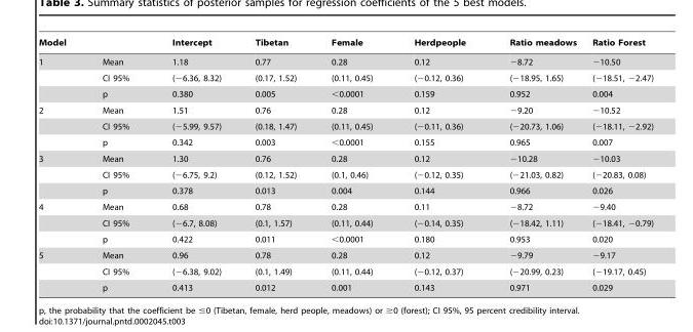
<table><thead><tr><td>Model</td><td></td><td>Intercept</td><td>Tibetan</td><td>Female</td><td>Herdpeople</td><td>Ratio meadows</td><td>Ratio Forest</td></tr></thead><tbody><tr><td rowspan="3">1</td><td>Mean</td><td>1.18</td><td>0.77</td><td>0.28</td><td>0.12</td><td>−8.72</td><td>−10.50</td></tr><tr><td>CI 95%</td><td>(−6.36, 8.32)</td><td>(0.17, 1.52)</td><td>(0.11, 0.45)</td><td>(−0.12, 0.36)</td><td>(−18.95, 1.65)</td><td>(−18.51, −2.47)</td></tr><tr><td>p</td><td>0.380</td><td>0.005</td><td>&lt;0.0001</td><td>0.159</td><td>0.952</td><td>0.004</td></tr><tr><td rowspan="3">2</td><td>Mean</td><td>1.51</td><td>0.76</td><td>0.28</td><td>0.12</td><td>−9.20</td><td>−10.52</td></tr><tr><td>CI 95%</td><td>(−5.99, 9.57)</td><td>(0.18, 1.47)</td><td>(0.11, 0.45)</td><td>(−0.11, 0.36)</td><td>(−20.73, 1.06)</td><td>(−18.11, −2.92)</td></tr><tr><td>p</td><td>0.342</td><td>0.003</td><td>&lt;0.0001</td><td>0.155</td><td>0.965</td><td>0.007</td></tr><tr><td rowspan="3">3</td><td>Mean</td><td>1.30</td><td>0.76</td><td>0.28</td><td>0.12</td><td>−10.28</td><td>−10.03</td></tr><tr><td>CI 95%</td><td>(−6.75, 9.2)</td><td>(0.12, 1.52)</td><td>(0.1, 0.46)</td><td>(−0.12, 0.35)</td><td>(−21.03, 0.82)</td><td>(−20.83, 0.08)</td></tr><tr><td>p</td><td>0.378</td><td>0.013</td><td>0.004</td><td>0.144</td><td>0.966</td><td>0.026</td></tr><tr><td rowspan="3">4</td><td>Mean</td><td>0.68</td><td>0.78</td><td>0.28</td><td>0.11</td><td>−8.72</td><td>−9.40</td></tr><tr><td>CI 95%</td><td>(−6.7, 8.08)</td><td>(0.1, 1.57)</td><td>(0.11, 0.44)</td><td>(−0.14, 0.35)</td><td>(−18.42, 1.11)</td><td>(−18.41, −0.79)</td></tr><tr><td>p</td><td>0.422</td><td>0.011</td><td>&lt;0.0001</td><td>0.180</td><td>0.953</td><td>0.020</td></tr><tr><td rowspan="3">5</td><td>Mean</td><td>0.96</td><td>0.78</td><td>0.28</td><td>0.12</td><td>−9.79</td><td>−9.17</td></tr><tr><td>CI 95%</td><td>(−6.38, 9.02)</td><td>(0.1, 1.49)</td><td>(0.11, 0.44)</td><td>(−0.12, 0.37)</td><td>(−20.99, 0.23)</td><td>(−19.17, 0.45)</td></tr><tr><td>p</td><td>0.413</td><td>0.012</td><td>0.001</td><td>0.143</td><td>0.971</td><td>0.029</td></tr></tbody></table>